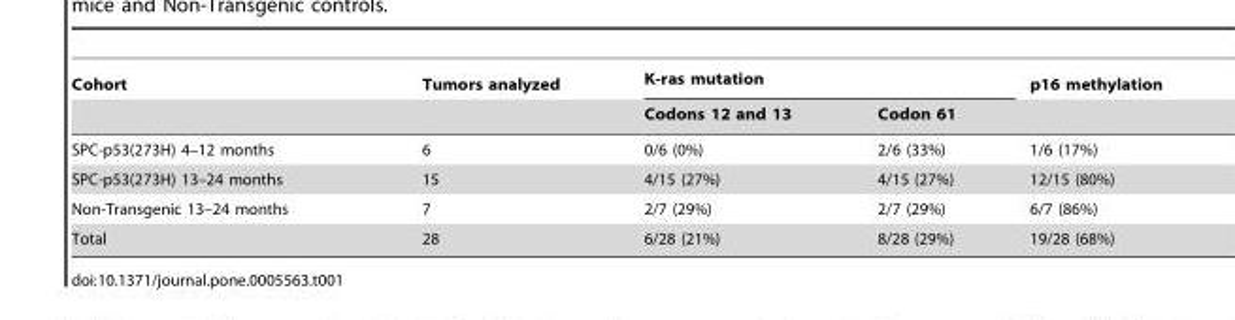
<table><thead><tr><td rowspan="2">Cohort</td><td rowspan="2">Tumors analyzed</td><td colspan="2">K-ras mutation</td><td rowspan="2">p16 methylation</td></tr><tr><td>Codons 12 and 13</td><td>Codon 61</td></tr></thead><tbody><tr><td>SPC-p53(273H) 4–12 months</td><td>6</td><td>0/6 (0%)</td><td>2/6 (33%)</td><td>1/6 (17%)</td></tr><tr><td>SPC-p53(273H) 13–24 months</td><td>15</td><td>4/15 (27%)</td><td>4/15 (27%)</td><td>12/15 (80%)</td></tr><tr><td>Non-Transgenic 13–24 months</td><td>7</td><td>2/7 (29%)</td><td>2/7 (29%)</td><td>6/7 (86%)</td></tr><tr><td>Total</td><td>28</td><td>6/28 (21%)</td><td>8/28 (29%)</td><td>19/28 (68%)</td></tr></tbody></table>